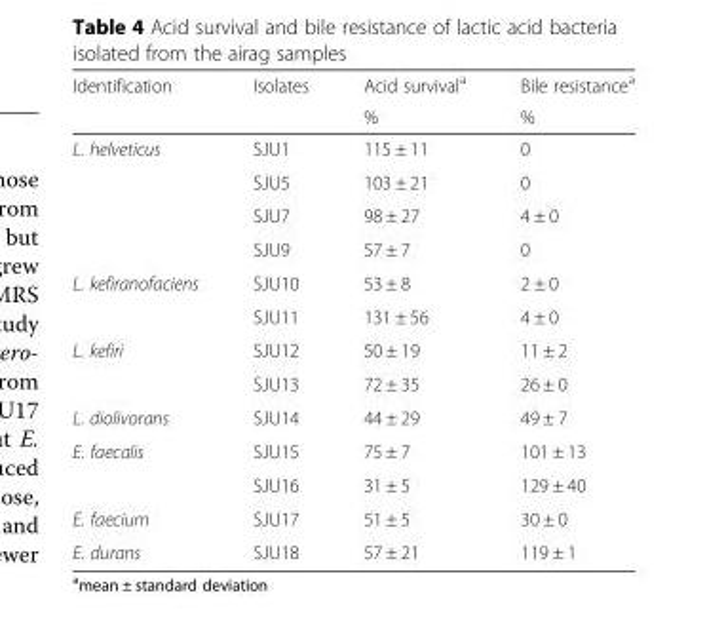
<table><thead><tr><td rowspan="2">Identification</td><td rowspan="2">Isolates</td><td rowspan="2">Acid survival<sup>a</sup> %</td><td rowspan="2">Bile resistance<sup>a</sup> %</td></tr><tr></tr></thead><tbody><tr><td rowspan="4">L. helveticus</td><td>SJU1</td><td>115 ± 11</td><td>0</td></tr><tr><td>SJU5</td><td>103 ± 21</td><td>0</td></tr><tr><td>SJU7</td><td>98 ± 27</td><td>4 ± 0</td></tr><tr><td>SJU9</td><td>57 ± 7</td><td>0</td></tr><tr><td rowspan="2">L. kefiranofaciens</td><td>SJU10</td><td>53 ± 8</td><td>2 ± 0</td></tr><tr><td>SJU11</td><td>131 ± 56</td><td>4 ± 0</td></tr><tr><td rowspan="2">L. kefiri</td><td>SJU12</td><td>50 ± 19</td><td>11 ± 2</td></tr><tr><td>SJU13</td><td>72 ± 35</td><td>26 ± 0</td></tr><tr><td>L. diolivorans</td><td>SJU14</td><td>44 ± 29</td><td>49 ± 7</td></tr><tr><td rowspan="2">E. faecalis</td><td>SJU15</td><td>75 ± 7</td><td>101 ± 13</td></tr><tr><td>SJU16</td><td>31 ± 5</td><td>129 ± 40</td></tr><tr><td>E. faecium</td><td>SJU17</td><td>51 ± 5</td><td>30 ± 0</td></tr><tr><td>E. durans</td><td>SJU18</td><td>57 ± 21</td><td>119 ± 1</td></tr></tbody></table>